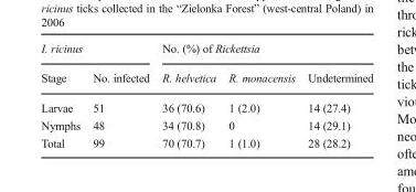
<table><thead><tr><td colspan="2">I. ricinus</td><td colspan="3">No. (%) of Rickettsia</td></tr><tr><td>Stage</td><td>No. infected</td><td>R. helvetica</td><td>R. monacensis</td><td>Undetermined</td></tr></thead><tbody><tr><td>Larvae</td><td>51</td><td>36 (70.6)</td><td>1 (2.0)</td><td>14 (27.4)</td></tr><tr><td>Nymphs</td><td>48</td><td>34 (70.8)</td><td>0</td><td>14 (29.1)</td></tr><tr><td>Total</td><td>99</td><td>70 (70.7)</td><td>1 (1.0)</td><td>28 (28.2)</td></tr></tbody></table>